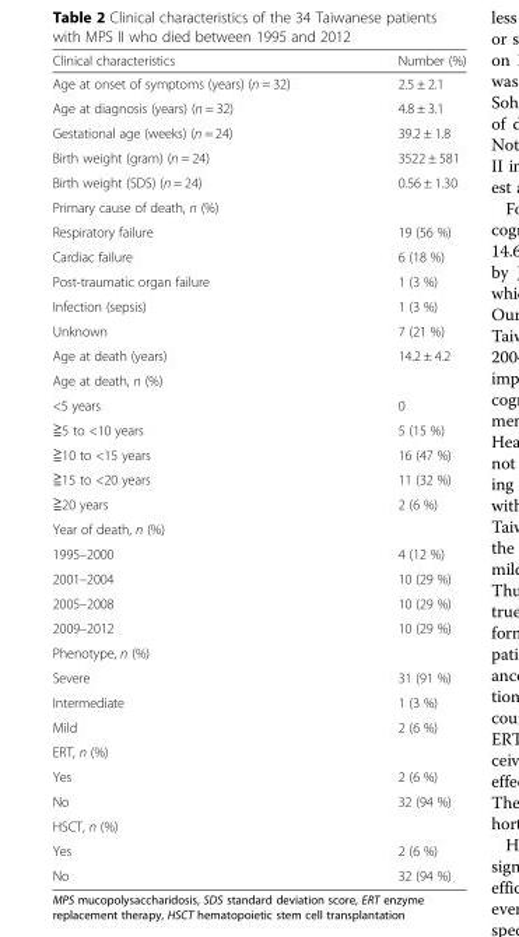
<table><thead><tr><td>Clinical characteristics</td><td>Number (%)</td></tr></thead><tbody><tr><td>Age at onset of symptoms (years) (n = 32)</td><td>2.5 ± 2.1</td></tr><tr><td>Age at diagnosis (years) (n = 32)</td><td>4.8 ± 3.1</td></tr><tr><td>Gestational age (weeks) (n = 24)</td><td>39.2 ± 1.8</td></tr><tr><td>Birth weight (gram) (n = 24)</td><td>3522 ± 581</td></tr><tr><td>Birth weight (SDS) (n = 24)</td><td>0.56 ± 1.30</td></tr><tr><td colspan="2">Primary cause of death, n (%)</td></tr><tr><td>Respiratory failure</td><td>19 (56 %)</td></tr><tr><td>Cardiac failure</td><td>6 (18 %)</td></tr><tr><td>Post-traumatic organ failure</td><td>1 (3 %)</td></tr><tr><td>Infection (sepsis)</td><td>1 (3 %)</td></tr><tr><td>Unknown</td><td>7 (21 %)</td></tr><tr><td>Age at death (years)</td><td>14.2 ± 4.2</td></tr><tr><td colspan="2">Age at death, n (%)</td></tr><tr><td>&lt;5 years</td><td>0</td></tr><tr><td>≧5 to &lt;10 years</td><td>5 (15 %)</td></tr><tr><td>≧10 to &lt;15 years</td><td>16 (47 %)</td></tr><tr><td>≧15 to &lt;20 years</td><td>11 (32 %)</td></tr><tr><td>≧20 years</td><td>2 (6 %)</td></tr><tr><td colspan="2">Year of death, n (%)</td></tr><tr><td>1995–2000</td><td>4 (12 %)</td></tr><tr><td>2001–2004</td><td>10 (29 %)</td></tr><tr><td>2005–2008</td><td>10 (29 %)</td></tr><tr><td>2009–2012</td><td>10 (29 %)</td></tr><tr><td colspan="2">Phenotype, n (%)</td></tr><tr><td>Severe</td><td>31 (91 %)</td></tr><tr><td>Intermediate</td><td>1 (3 %)</td></tr><tr><td>Mild</td><td>2 (6 %)</td></tr><tr><td colspan="2">ERT, n (%)</td></tr><tr><td>Yes</td><td>2 (6 %)</td></tr><tr><td>No</td><td>32 (94 %)</td></tr><tr><td colspan="2">HSCT, n (%)</td></tr><tr><td>Yes</td><td>2 (6 %)</td></tr><tr><td>No</td><td>32 (94 %)</td></tr></tbody></table>